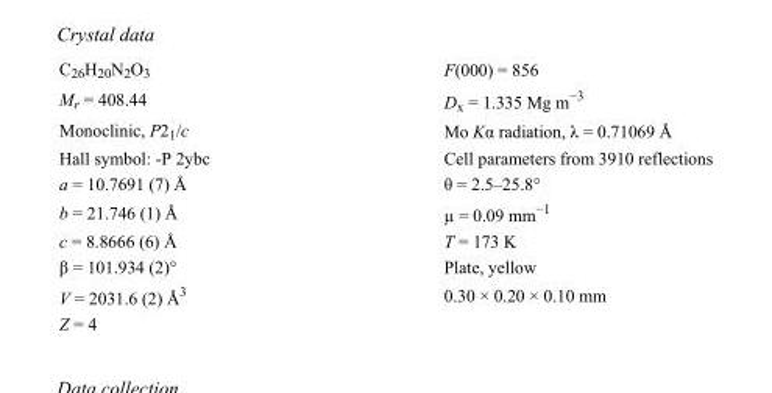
<table><tbody><tr><td>C<sub>26</sub>H<sub>20</sub>N<sub>2</sub>O<sub>3</sub></td><td>F(000) = 856</td></tr><tr><td>M<sub>r</sub> = 408.44</td><td>D<sub>x</sub> = 1.335 Mg m<sup>−3</sup></td></tr><tr><td>Monoclinic, P2<sub>1</sub>/c</td><td>Mo Kα radiation, λ = 0.71069 Å</td></tr><tr><td>Hall symbol: -P 2ybc</td><td>Cell parameters from 3910 reflections</td></tr><tr><td>a = 10.7691 (7) Å</td><td>θ = 2.5–25.8°</td></tr><tr><td>b = 21.746 (1) Å</td><td>µ = 0.09 mm<sup>−1</sup></td></tr><tr><td>c = 8.8666 (6) Å</td><td>T = 173 K</td></tr><tr><td>β = 101.934 (2)°</td><td>Plate, yellow</td></tr><tr><td>V = 2031.6 (2) Å<sup>3</sup></td><td>0.30 × 0.20 × 0.10 mm</td></tr><tr><td>Z = 4</td><td></td></tr></tbody></table>